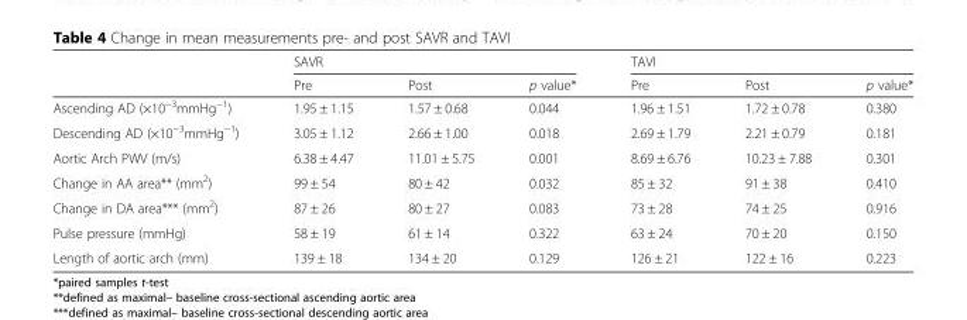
<table><thead><tr><td rowspan="2"></td><td colspan="3">SAVR</td><td colspan="3">TAVI</td></tr><tr><td>Pre</td><td>Post</td><td>p value*</td><td>Pre</td><td>Post</td><td>p value*</td></tr></thead><tbody><tr><td>Ascending AD (×10<sup>−3</sup>mmHg<sup>−1</sup>)</td><td>1.95 ± 1.15</td><td>1.57 ± 0.68</td><td>0.044</td><td>1.96 ± 1.51</td><td>1.72 ± 0.78</td><td>0.380</td></tr><tr><td>Descending AD (×10<sup>−3</sup>mmHg<sup>−1</sup>)</td><td>3.05 ± 1.12</td><td>2.66 ± 1.00</td><td>0.018</td><td>2.69 ± 1.79</td><td>2.21 ± 0.79</td><td>0.181</td></tr><tr><td>Aortic Arch PWV (m/s)</td><td>6.38 ± 4.47</td><td>11.01 ± 5.75</td><td>0.001</td><td>8.69 ± 6.76</td><td>10.23 ± 7.88</td><td>0.301</td></tr><tr><td>Change in AA area** (mm<sup>2</sup>)</td><td>99 ± 54</td><td>80 ± 42</td><td>0.032</td><td>85 ± 32</td><td>91 ± 38</td><td>0.410</td></tr><tr><td>Change in DA area*** (mm<sup>2</sup>)</td><td>87 ± 26</td><td>80 ± 27</td><td>0.083</td><td>73 ± 28</td><td>74 ± 25</td><td>0.916</td></tr><tr><td>Pulse pressure (mmHg)</td><td>58 ± 19</td><td>61 ± 14</td><td>0.322</td><td>63 ± 24</td><td>70 ± 20</td><td>0.150</td></tr><tr><td>Length of aortic arch (mm)</td><td>139 ± 18</td><td>134 ± 20</td><td>0.129</td><td>126 ± 21</td><td>122 ± 16</td><td>0.223</td></tr></tbody></table>